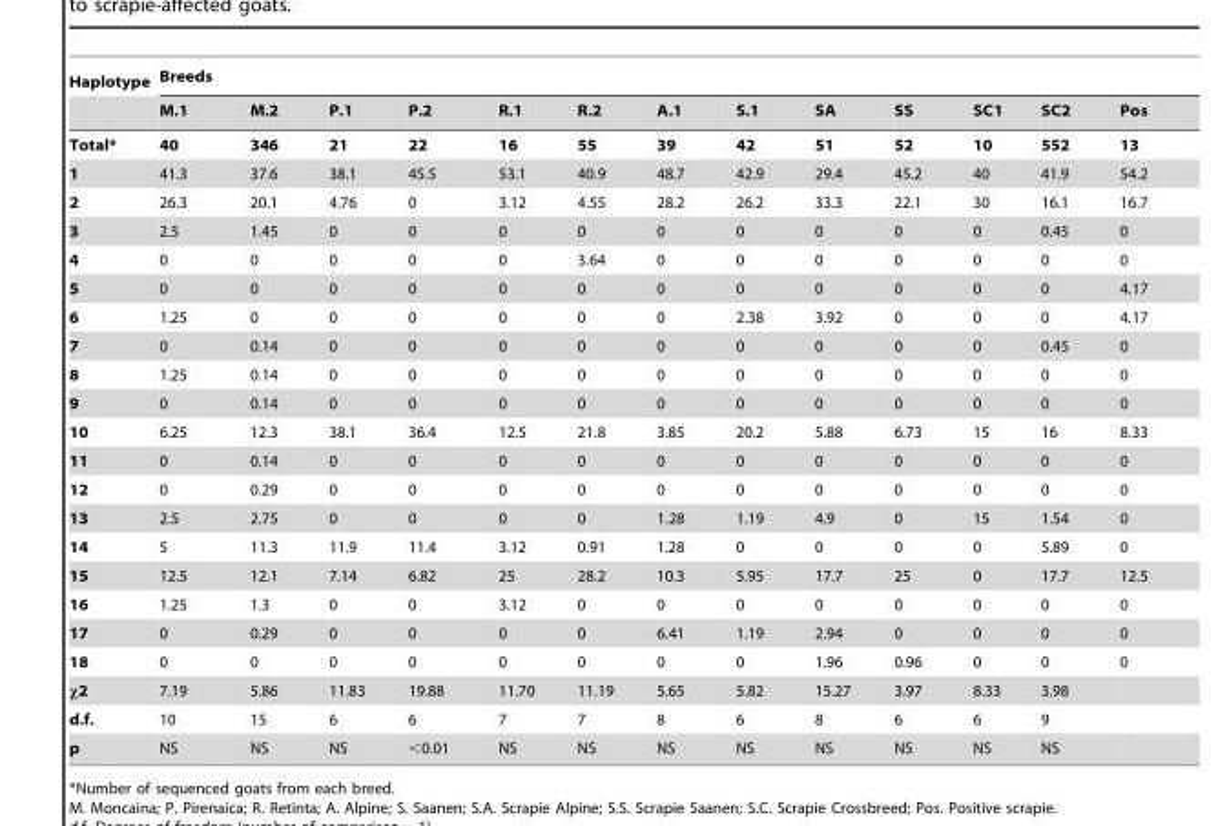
<table><thead><tr><td rowspan="2">Haplotype</td><td colspan="13">Breeds</td></tr><tr><td>M.1</td><td>M.2</td><td>P.1</td><td>P.2</td><td>R.1</td><td>R.2</td><td>A.1</td><td>S.1</td><td>SA</td><td>SS</td><td>SC1</td><td>SC2</td><td>Pos</td></tr></thead><tbody><tr><td>Total*</td><td>40</td><td>346</td><td>21</td><td>22</td><td>16</td><td>55</td><td>39</td><td>42</td><td>51</td><td>52</td><td>10</td><td>552</td><td>13</td></tr><tr><td>1</td><td>41.3</td><td>37.6</td><td>38.1</td><td>45.5</td><td>53.1</td><td>40.9</td><td>48.7</td><td>42.9</td><td>29.4</td><td>45.2</td><td>40</td><td>41.9</td><td>54.2</td></tr><tr><td>2</td><td>26.3</td><td>20.1</td><td>4.76</td><td>0</td><td>3.12</td><td>4.55</td><td>28.2</td><td>26.2</td><td>33.3</td><td>22.1</td><td>30</td><td>16.1</td><td>16.7</td></tr><tr><td>3</td><td>2.5</td><td>1.45</td><td>0</td><td>0</td><td>0</td><td>0</td><td>0</td><td>0</td><td>0</td><td>0</td><td>0</td><td>0.45</td><td>0</td></tr><tr><td>4</td><td>0</td><td>0</td><td>0</td><td>0</td><td>0</td><td>3.64</td><td>0</td><td>0</td><td>0</td><td>0</td><td>0</td><td>0</td><td>0</td></tr><tr><td>5</td><td>0</td><td>0</td><td>0</td><td>0</td><td>0</td><td>0</td><td>0</td><td>0</td><td>0</td><td>0</td><td>0</td><td>0</td><td>4.17</td></tr><tr><td>6</td><td>1.25</td><td>0</td><td>0</td><td>0</td><td>0</td><td>0</td><td>0</td><td>2.38</td><td>3.92</td><td>0</td><td>0</td><td>0</td><td>4.17</td></tr><tr><td>7</td><td>0</td><td>0.14</td><td>0</td><td>0</td><td>0</td><td>0</td><td>0</td><td>0</td><td>0</td><td>0</td><td>0</td><td>0.45</td><td>0</td></tr><tr><td>8</td><td>1.25</td><td>0.14</td><td>0</td><td>0</td><td>0</td><td>0</td><td>0</td><td>0</td><td>0</td><td>0</td><td>0</td><td>0</td><td>0</td></tr><tr><td>9</td><td>0</td><td>0.14</td><td>0</td><td>0</td><td>0</td><td>0</td><td>0</td><td>0</td><td>0</td><td>0</td><td>0</td><td>0</td><td>0</td></tr><tr><td>10</td><td>6.25</td><td>12.3</td><td>38.1</td><td>36.4</td><td>12.5</td><td>21.8</td><td>3.85</td><td>20.2</td><td>5.88</td><td>6.73</td><td>15</td><td>16</td><td>8.33</td></tr><tr><td>11</td><td>0</td><td>0.14</td><td>0</td><td>0</td><td>0</td><td>0</td><td>0</td><td>0</td><td>0</td><td>0</td><td>0</td><td>0</td><td>0</td></tr><tr><td>12</td><td>0</td><td>0.29</td><td>0</td><td>0</td><td>0</td><td>0</td><td>0</td><td>0</td><td>0</td><td>0</td><td>0</td><td>0</td><td>0</td></tr><tr><td>13</td><td>2.5</td><td>2.75</td><td>0</td><td>0</td><td>0</td><td>0</td><td>1.28</td><td>1.19</td><td>4.9</td><td>0</td><td>15</td><td>1.54</td><td>0</td></tr><tr><td>14</td><td>5</td><td>11.3</td><td>11.9</td><td>11.4</td><td>3.12</td><td>0.91</td><td>1.28</td><td>0</td><td>0</td><td>0</td><td>0</td><td>5.89</td><td>0</td></tr><tr><td>15</td><td>12.5</td><td>12.1</td><td>7.14</td><td>6.82</td><td>25</td><td>28.2</td><td>10.3</td><td>5.95</td><td>17.7</td><td>25</td><td>0</td><td>17.7</td><td>12.5</td></tr><tr><td>16</td><td>1.25</td><td>1.3</td><td>0</td><td>0</td><td>3.12</td><td>0</td><td>0</td><td>0</td><td>0</td><td>0</td><td>0</td><td>0</td><td>0</td></tr><tr><td>17</td><td>0</td><td>0.29</td><td>0</td><td>0</td><td>0</td><td>0</td><td>6.41</td><td>1.19</td><td>2.94</td><td>0</td><td>0</td><td>0</td><td>0</td></tr><tr><td>18</td><td>0</td><td>0</td><td>0</td><td>0</td><td>0</td><td>0</td><td>0</td><td>0</td><td>1.96</td><td>0.96</td><td>0</td><td>0</td><td>0</td></tr><tr><td>χ2</td><td>7.19</td><td>5.86</td><td>11.83</td><td>19.88</td><td>11.70</td><td>11.19</td><td>5.65</td><td>5.82</td><td>15.27</td><td>3.97</td><td>8.33</td><td>3.98</td><td></td></tr><tr><td>d.f.</td><td>10</td><td>15</td><td>6</td><td>6</td><td>7</td><td>7</td><td>8</td><td>6</td><td>8</td><td>6</td><td>6</td><td>9</td><td></td></tr><tr><td>p</td><td>NS</td><td>NS</td><td>NS</td><td>&lt;0.01</td><td>NS</td><td>NS</td><td>NS</td><td>NS</td><td>NS</td><td>NS</td><td>NS</td><td>NS</td><td></td></tr></tbody></table>